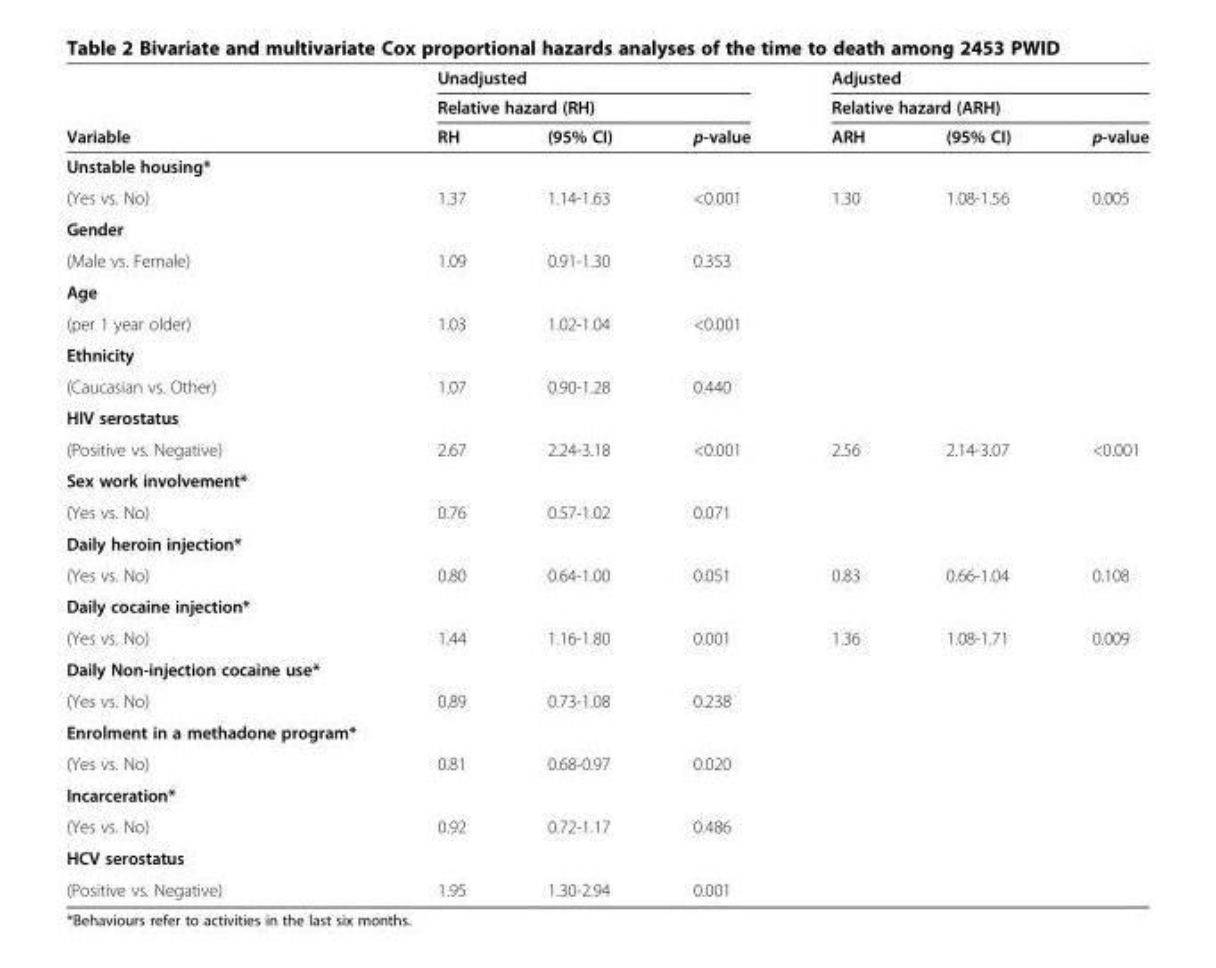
<table><thead><tr><td rowspan="3">Variable</td><td rowspan="2" colspan="3">Unadjusted Relative hazard (RH)</td><td rowspan="2" colspan="3">Adjusted Relative hazard (ARH)</td></tr><tr></tr><tr><td>RH</td><td>(95% CI)</td><td>p-value</td><td>ARH</td><td>(95% CI)</td><td>p-value</td></tr></thead><tbody><tr><td colspan="7">Unstable housing*</td></tr><tr><td>(Yes vs. No)</td><td>1.37</td><td>1.14-1.63</td><td>&lt;0.001</td><td>1.30</td><td>1.08-1.56</td><td>0.005</td></tr><tr><td colspan="7">Gender</td></tr><tr><td>(Male vs. Female)</td><td>1.09</td><td>0.91-1.30</td><td>0.353</td><td></td><td></td><td></td></tr><tr><td colspan="7">Age</td></tr><tr><td>(per 1 year older)</td><td>1.03</td><td>1.02-1.04</td><td>&lt;0.001</td><td></td><td></td><td></td></tr><tr><td colspan="7">Ethnicity</td></tr><tr><td>(Caucasian vs. Other)</td><td>1.07</td><td>0.90-1.28</td><td>0.440</td><td></td><td></td><td></td></tr><tr><td colspan="7">HIV serostatus</td></tr><tr><td>(Positive vs. Negative)</td><td>2.67</td><td>2.24-3.18</td><td>&lt;0.001</td><td>2.56</td><td>2.14-3.07</td><td>&lt;0.001</td></tr><tr><td colspan="7">Sex work involvement*</td></tr><tr><td>(Yes vs. No)</td><td>0.76</td><td>0.57-1.02</td><td>0.071</td><td></td><td></td><td></td></tr><tr><td colspan="7">Daily heroin injection*</td></tr><tr><td>(Yes vs. No)</td><td>0.80</td><td>0.64-1.00</td><td>0.051</td><td>0.83</td><td>0.66-1.04</td><td>0.108</td></tr><tr><td colspan="7">Daily cocaine injection*</td></tr><tr><td>(Yes vs. No)</td><td>1.44</td><td>1.16-1.80</td><td>0.001</td><td>1.36</td><td>1.08-1.71</td><td>0.009</td></tr><tr><td colspan="7">Daily Non-injection cocaine use*</td></tr><tr><td>(Yes vs. No)</td><td>0.89</td><td>0.73-1.08</td><td>0.238</td><td></td><td></td><td></td></tr><tr><td colspan="7">Enrolment in a methadone program*</td></tr><tr><td>(Yes vs. No)</td><td>0.81</td><td>0.68-0.97</td><td>0.020</td><td></td><td></td><td></td></tr><tr><td colspan="7">Incarceration*</td></tr><tr><td>(Yes vs. No)</td><td>0.92</td><td>0.72-1.17</td><td>0.486</td><td></td><td></td><td></td></tr><tr><td colspan="7">HCV serostatus</td></tr><tr><td>(Positive vs. Negative)</td><td>1.95</td><td>1.30-2.94</td><td>0.001</td><td></td><td></td><td></td></tr></tbody></table>